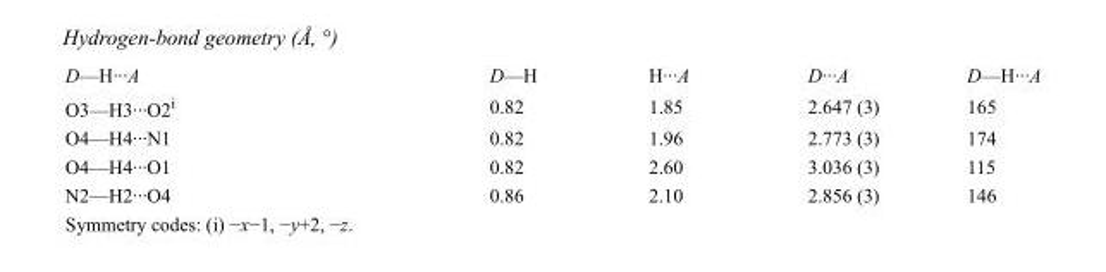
<table><tbody><tr><td>D—H···A</td><td>D—H</td><td>H···A</td><td>D···A</td><td>D—H···A</td></tr><tr><td>O3—H3···O2<sup>i</sup></td><td>0.82</td><td>1.85</td><td>2.647 (3)</td><td>165</td></tr><tr><td>O4—H4···N1</td><td>0.82</td><td>1.96</td><td>2.773 (3)</td><td>174</td></tr><tr><td>O4—H4···O1</td><td>0.82</td><td>2.60</td><td>3.036 (3)</td><td>115</td></tr><tr><td>N2—H2···O4</td><td>0.86</td><td>2.10</td><td>2.856 (3)</td><td>146</td></tr></tbody></table>